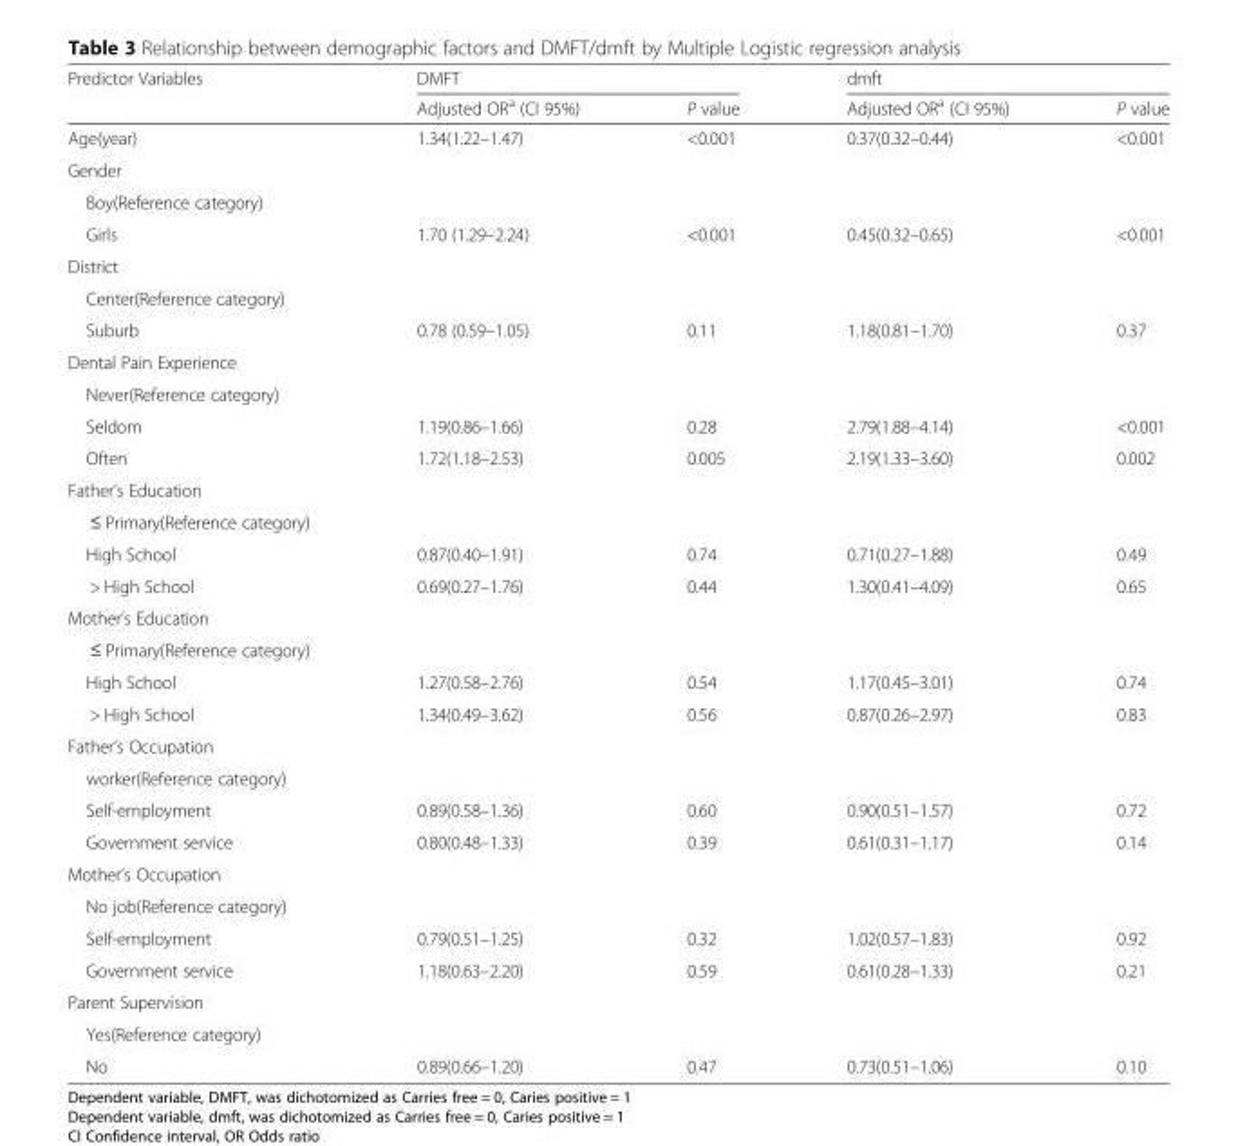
<table><thead><tr><td rowspan="2">Predictor Variables</td><td colspan="2">DMFT</td><td colspan="2">dmft</td></tr><tr><td>Adjusted OR<sup>a</sup> (CI 95%)</td><td>P value</td><td>Adjusted OR<sup>a</sup> (CI 95%)</td><td>P value</td></tr></thead><tbody><tr><td>Age(year)</td><td>1.34(1.22–1.47)</td><td>&lt;0.001</td><td>0.37(0.32–0.44)</td><td>&lt;0.001</td></tr><tr><td colspan="5">Gender</td></tr><tr><td colspan="5">Boy(Reference category)</td></tr><tr><td>Girls</td><td>1.70 (1.29–2.24)</td><td>&lt;0.001</td><td>0.45(0.32–0.65)</td><td>&lt;0.001</td></tr><tr><td colspan="5">District</td></tr><tr><td colspan="5">Center(Reference category)</td></tr><tr><td>Suburb</td><td>0.78 (0.59–1.05)</td><td>0.11</td><td>1.18(0.81–1.70)</td><td>0.37</td></tr><tr><td colspan="5">Dental Pain Experience</td></tr><tr><td colspan="5">Never(Reference category)</td></tr><tr><td>Seldom</td><td>1.19(0.86–1.66)</td><td>0.28</td><td>2.79(1.88–4.14)</td><td>&lt;0.001</td></tr><tr><td>Often</td><td>1.72(1.18–2.53)</td><td>0.005</td><td>2.19(1.33–3.60)</td><td>0.002</td></tr><tr><td colspan="5">Father’s Education</td></tr><tr><td colspan="5">≤ Primary(Reference category)</td></tr><tr><td>High School</td><td>0.87(0.40–1.91)</td><td>0.74</td><td>0.71(0.27–1.88)</td><td>0.49</td></tr><tr><td>&gt; High School</td><td>0.69(0.27–1.76)</td><td>0.44</td><td>1.30(0.41–4.09)</td><td>0.65</td></tr><tr><td colspan="5">Mother’s Education</td></tr><tr><td colspan="5">≤ Primary(Reference category)</td></tr><tr><td>High School</td><td>1.27(0.58–2.76)</td><td>0.54</td><td>1.17(0.45–3.01)</td><td>0.74</td></tr><tr><td>&gt; High School</td><td>1.34(0.49–3.62)</td><td>0.56</td><td>0.87(0.26–2.97)</td><td>0.83</td></tr><tr><td colspan="5">Father’s Occupation</td></tr><tr><td colspan="5">worker(Reference category)</td></tr><tr><td>Self-employment</td><td>0.89(0.58–1.36)</td><td>0.60</td><td>0.90(0.51–1.57)</td><td>0.72</td></tr><tr><td>Government service</td><td>0.80(0.48–1.33)</td><td>0.39</td><td>0.61(0.31–1.17)</td><td>0.14</td></tr><tr><td colspan="5">Mother’s Occupation</td></tr><tr><td colspan="5">No job(Reference category)</td></tr><tr><td>Self-employment</td><td>0.79(0.51–1.25)</td><td>0.32</td><td>1.02(0.57–1.83)</td><td>0.92</td></tr><tr><td>Government service</td><td>1.18(0.63–2.20)</td><td>0.59</td><td>0.61(0.28–1.33)</td><td>0.21</td></tr><tr><td colspan="5">Parent Supervision</td></tr><tr><td colspan="5">Yes(Reference category)</td></tr><tr><td>No</td><td>0.89(0.66–1.20)</td><td>0.47</td><td>0.73(0.51–1.06)</td><td>0.10</td></tr></tbody></table>